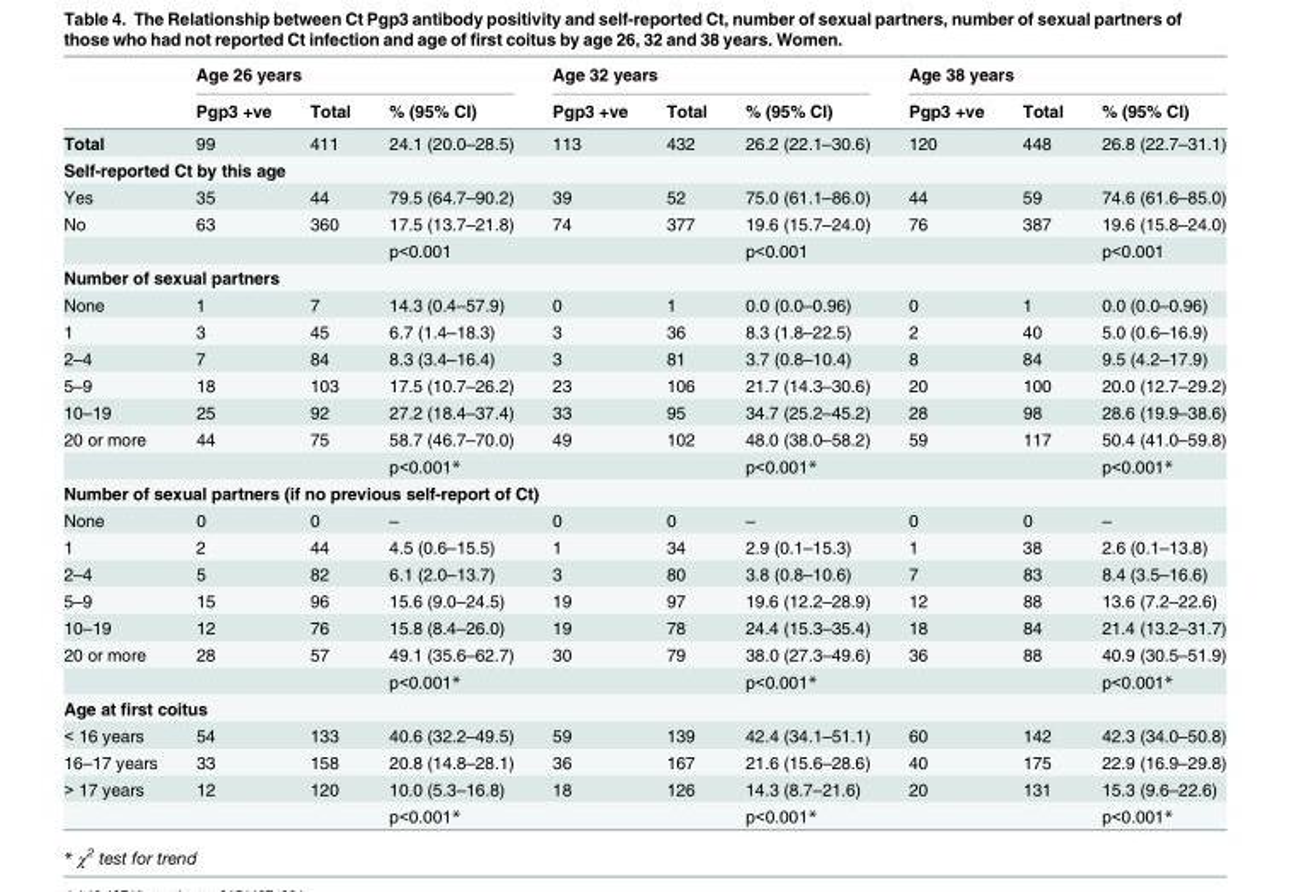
<table><thead><tr><td rowspan="2"></td><td colspan="3">Age 26 years</td><td colspan="3">Age 32 years</td><td colspan="3">Age 38 years</td></tr><tr><td>Pgp3 +ve</td><td>Total</td><td>% (95% CI)</td><td>Pgp3 +ve</td><td>Total</td><td>% (95% CI)</td><td>Pgp3 +ve</td><td>Total</td><td>% (95% CI)</td></tr></thead><tbody><tr><td>Total</td><td>99</td><td>411</td><td>24.1 (20.0–28.5)</td><td>113</td><td>432</td><td>26.2 (22.1–30.6)</td><td>120</td><td>448</td><td>26.8 (22.7–31.1)</td></tr><tr><td colspan="10">Self-reported Ct by this age</td></tr><tr><td>Yes</td><td>35</td><td>44</td><td>79.5 (64.7–90.2)</td><td>39</td><td>52</td><td>75.0 (61.1–86.0)</td><td>44</td><td>59</td><td>74.6 (61.6–85.0)</td></tr><tr><td rowspan="2">No</td><td>63</td><td>360</td><td>17.5 (13.7–21.8)</td><td>74</td><td>377</td><td>19.6 (15.7–24.0)</td><td>76</td><td>387</td><td>19.6 (15.8–24.0)</td></tr><tr><td></td><td></td><td>p&lt;0.001</td><td></td><td></td><td>p&lt;0.001</td><td></td><td></td><td>p&lt;0.001</td></tr><tr><td colspan="10">Number of sexual partners</td></tr><tr><td>None</td><td>1</td><td>7</td><td>14.3 (0.4–57.9)</td><td>0</td><td>1</td><td>0.0 (0.0–0.96)</td><td>0</td><td>1</td><td>0.0 (0.0–0.96)</td></tr><tr><td>1</td><td>3</td><td>45</td><td>6.7 (1.4–18.3)</td><td>3</td><td>36</td><td>8.3 (1.8–22.5)</td><td>2</td><td>40</td><td>5.0 (0.6–16.9)</td></tr><tr><td>2–4</td><td>7</td><td>84</td><td>8.3 (3.4–16.4)</td><td>3</td><td>81</td><td>3.7 (0.8–10.4)</td><td>8</td><td>84</td><td>9.5 (4.2–17.9)</td></tr><tr><td>5–9</td><td>18</td><td>103</td><td>17.5 (10.7–26.2)</td><td>23</td><td>106</td><td>21.7 (14.3–30.6)</td><td>20</td><td>100</td><td>20.0 (12.7–29.2)</td></tr><tr><td>10–19</td><td>25</td><td>92</td><td>27.2 (18.4–37.4)</td><td>33</td><td>95</td><td>34.7 (25.2–45.2)</td><td>28</td><td>98</td><td>28.6 (19.9–38.6)</td></tr><tr><td rowspan="2">20 or more</td><td>44</td><td>75</td><td>58.7 (46.7–70.0)</td><td>49</td><td>102</td><td>48.0 (38.0–58.2)</td><td>59</td><td>117</td><td>50.4 (41.0–59.8)</td></tr><tr><td></td><td></td><td>p&lt;0.001*</td><td></td><td></td><td>p&lt;0.001*</td><td></td><td></td><td>p&lt;0.001*</td></tr><tr><td colspan="10">Number of sexual partners (if no previous self-report of Ct)</td></tr><tr><td>None</td><td>0</td><td>0</td><td>–</td><td>0</td><td>0</td><td>–</td><td>0</td><td>0</td><td>–</td></tr><tr><td>1</td><td>2</td><td>44</td><td>4.5 (0.6–15.5)</td><td>1</td><td>34</td><td>2.9 (0.1–15.3)</td><td>1</td><td>38</td><td>2.6 (0.1–13.8)</td></tr><tr><td>2–4</td><td>5</td><td>82</td><td>6.1 (2.0–13.7)</td><td>3</td><td>80</td><td>3.8 (0.8–10.6)</td><td>7</td><td>83</td><td>8.4 (3.5–16.6)</td></tr><tr><td>5–9</td><td>15</td><td>96</td><td>15.6 (9.0–24.5)</td><td>19</td><td>97</td><td>19.6 (12.2–28.9)</td><td>12</td><td>88</td><td>13.6 (7.2–22.6)</td></tr><tr><td>10–19</td><td>12</td><td>76</td><td>15.8 (8.4–26.0)</td><td>19</td><td>78</td><td>24.4 (15.3–35.4)</td><td>18</td><td>84</td><td>21.4 (13.2–31.7)</td></tr><tr><td rowspan="2">20 or more</td><td>28</td><td>57</td><td>49.1 (35.6–62.7)</td><td>30</td><td>79</td><td>38.0 (27.3–49.6)</td><td>36</td><td>88</td><td>40.9 (30.5–51.9)</td></tr><tr><td></td><td></td><td>p&lt;0.001*</td><td></td><td></td><td>p&lt;0.001*</td><td></td><td></td><td>p&lt;0.001*</td></tr><tr><td colspan="10">Age at first coitus</td></tr><tr><td>&lt; 16 years</td><td>54</td><td>133</td><td>40.6 (32.2–49.5)</td><td>59</td><td>139</td><td>42.4 (34.1–51.1)</td><td>60</td><td>142</td><td>42.3 (34.0–50.8)</td></tr><tr><td>16–17 years</td><td>33</td><td>158</td><td>20.8 (14.8–28.1)</td><td>36</td><td>167</td><td>21.6 (15.6–28.6)</td><td>40</td><td>175</td><td>22.9 (16.9–29.8)</td></tr><tr><td rowspan="2">&gt; 17 years</td><td>12</td><td>120</td><td>10.0 (5.3–16.8)</td><td>18</td><td>126</td><td>14.3 (8.7–21.6)</td><td>20</td><td>131</td><td>15.3 (9.6–22.6)</td></tr><tr><td></td><td></td><td>p&lt;0.001*</td><td></td><td></td><td>p&lt;0.001*</td><td></td><td></td><td>p&lt;0.001*</td></tr></tbody></table>